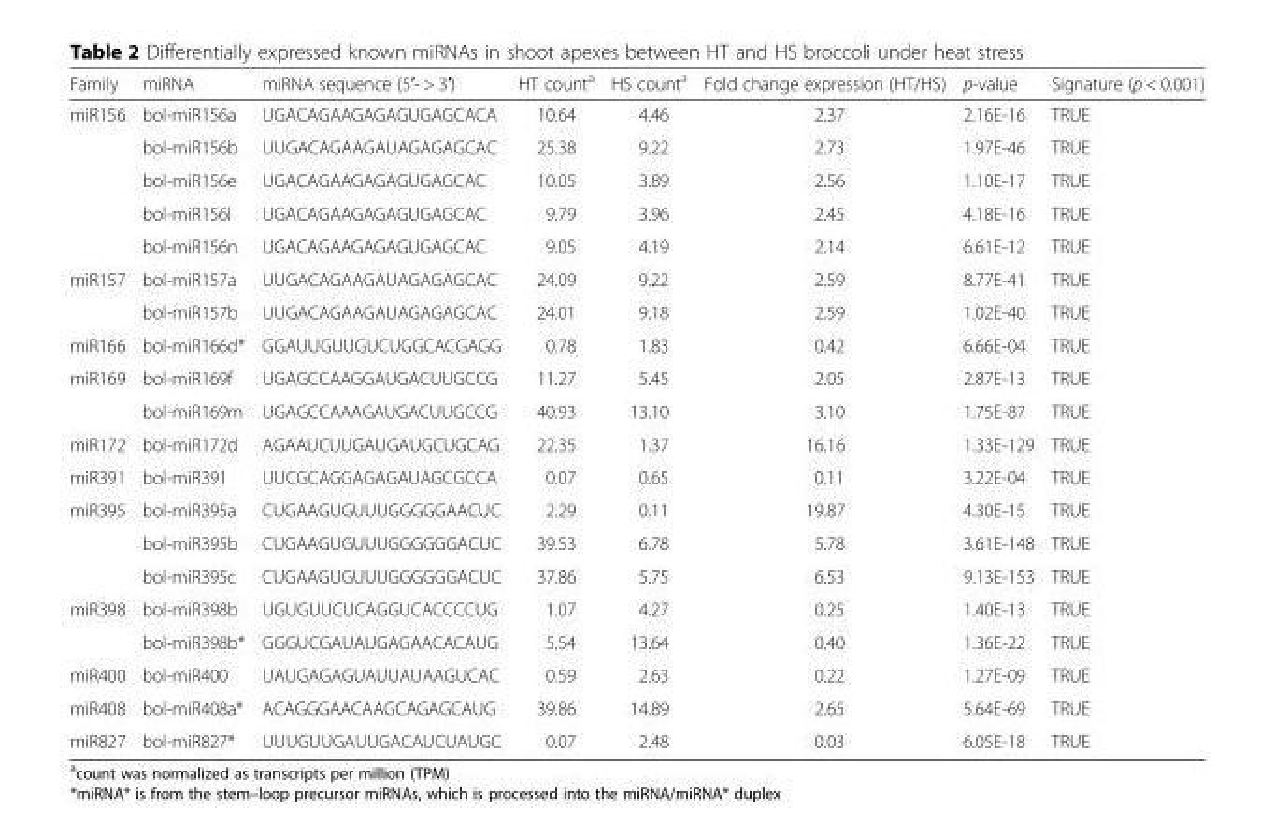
<table><thead><tr><td>Family</td><td>miRNA</td><td>miRNA sequence (5′- &gt; 3′)</td><td>HT count<sup>a</sup></td><td>HS count<sup>a</sup></td><td>Fold change expression (HT/HS)</td><td>p-value</td><td>Signature (p &lt; 0.001)</td></tr></thead><tbody><tr><td rowspan="5">miR156</td><td>bol-miR156a</td><td>UGACAGAAGAGAGUGAGCACA</td><td>10.64</td><td>4.46</td><td>2.37</td><td>2.16E-16</td><td>TRUE</td></tr><tr><td>bol-miR156b</td><td>UUGACAGAAGAUAGAGAGCAC</td><td>25.38</td><td>9.22</td><td>2.73</td><td>1.97E-46</td><td>TRUE</td></tr><tr><td>bol-miR156e</td><td>UGACAGAAGAGAGUGAGCAC</td><td>10.05</td><td>3.89</td><td>2.56</td><td>1.10E-17</td><td>TRUE</td></tr><tr><td>bol-miR156l</td><td>UGACAGAAGAGAGUGAGCAC</td><td>9.79</td><td>3.96</td><td>2.45</td><td>4.18E-16</td><td>TRUE</td></tr><tr><td>bol-miR156n</td><td>UGACAGAAGAGAGUGAGCAC</td><td>9.05</td><td>4.19</td><td>2.14</td><td>6.61E-12</td><td>TRUE</td></tr><tr><td rowspan="2">miR157</td><td>bol-miR157a</td><td>UUGACAGAAGAUAGAGAGCAC</td><td>24.09</td><td>9.22</td><td>2.59</td><td>8.77E-41</td><td>TRUE</td></tr><tr><td>bol-miR157b</td><td>UUGACAGAAGAUAGAGAGCAC</td><td>24.01</td><td>9.18</td><td>2.59</td><td>1.02E-40</td><td>TRUE</td></tr><tr><td>miR166</td><td>bol-miR166d*</td><td>GGAUUGUUGUCUGGCACGAGG</td><td>0.78</td><td>1.83</td><td>0.42</td><td>6.66E-04</td><td>TRUE</td></tr><tr><td rowspan="2">miR169</td><td>bol-miR169f</td><td>UGAGCCAAGGAUGACUUGCCG</td><td>11.27</td><td>5.45</td><td>2.05</td><td>2.87E-13</td><td>TRUE</td></tr><tr><td>bol-miR169m</td><td>UGAGCCAAAGAUGACUUGCCG</td><td>40.93</td><td>13.10</td><td>3.10</td><td>1.75E-87</td><td>TRUE</td></tr><tr><td>miR172</td><td>bol-miR172d</td><td>AGAAUCUUGAUGAUGCUGCAG</td><td>22.35</td><td>1.37</td><td>16.16</td><td>1.33E-129</td><td>TRUE</td></tr><tr><td>miR391</td><td>bol-miR391</td><td>UUCGCAGGAGAGAUAGCGCCA</td><td>0.07</td><td>0.65</td><td>0.11</td><td>3.22E-04</td><td>TRUE</td></tr><tr><td rowspan="3">miR395</td><td>bol-miR395a</td><td>CUGAAGUGUUUGGGGGAACUC</td><td>2.29</td><td>0.11</td><td>19.87</td><td>4.30E-15</td><td>TRUE</td></tr><tr><td>bol-miR395b</td><td>CUGAAGUGUUUGGGGGGACUC</td><td>39.53</td><td>6.78</td><td>5.78</td><td>3.61E-148</td><td>TRUE</td></tr><tr><td>bol-miR395c</td><td>CUGAAGUGUUUGGGGGGACUC</td><td>37.86</td><td>5.75</td><td>6.53</td><td>9.13E-153</td><td>TRUE</td></tr><tr><td rowspan="2">miR398</td><td>bol-miR398b</td><td>UGUGUUCUCAGGUCACCCCUG</td><td>1.07</td><td>4.27</td><td>0.25</td><td>1.40E-13</td><td>TRUE</td></tr><tr><td>bol-miR398b*</td><td>GGGUCGAUAUGAGAACACAUG</td><td>5.54</td><td>13.64</td><td>0.40</td><td>1.36E-22</td><td>TRUE</td></tr><tr><td>miR400</td><td>bol-miR400</td><td>UAUGAGAGUAUUAUAAGUCAC</td><td>0.59</td><td>2.63</td><td>0.22</td><td>1.27E-09</td><td>TRUE</td></tr><tr><td>miR408</td><td>bol-miR408a*</td><td>ACAGGGAACAAGCAGAGCAUG</td><td>39.86</td><td>14.89</td><td>2.65</td><td>5.64E-69</td><td>TRUE</td></tr><tr><td>miR827</td><td>bol-miR827*</td><td>UUUGUUGAUUGACAUCUAUGC</td><td>0.07</td><td>2.48</td><td>0.03</td><td>6.05E-18</td><td>TRUE</td></tr></tbody></table>